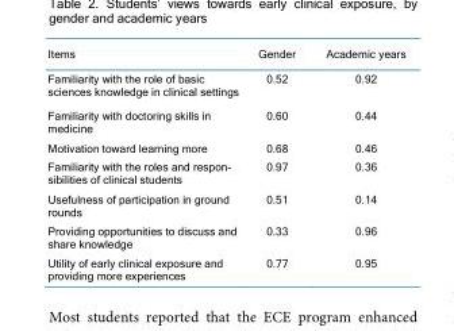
<table><thead><tr><td>Items</td><td>Gender</td><td>Academic years</td></tr></thead><tbody><tr><td>Familiarity with the role of basic sciences knowledge in clinical settings</td><td>0.52</td><td>0.92</td></tr><tr><td>Familiarity with doctoring skills in medicine</td><td>0.60</td><td>0.44</td></tr><tr><td>Motivation toward learning more</td><td>0.68</td><td>0.46</td></tr><tr><td>Familiarity with the roles and respon- sibilities of clinical students</td><td>0.97</td><td>0.36</td></tr><tr><td>Usefulness of participation in ground rounds</td><td>0.51</td><td>0.14</td></tr><tr><td>Providing opportunities to discuss and share knowledge</td><td>0.33</td><td>0.96</td></tr><tr><td>Utility of early clinical exposure and providing more experiences</td><td>0.77</td><td>0.95</td></tr></tbody></table>